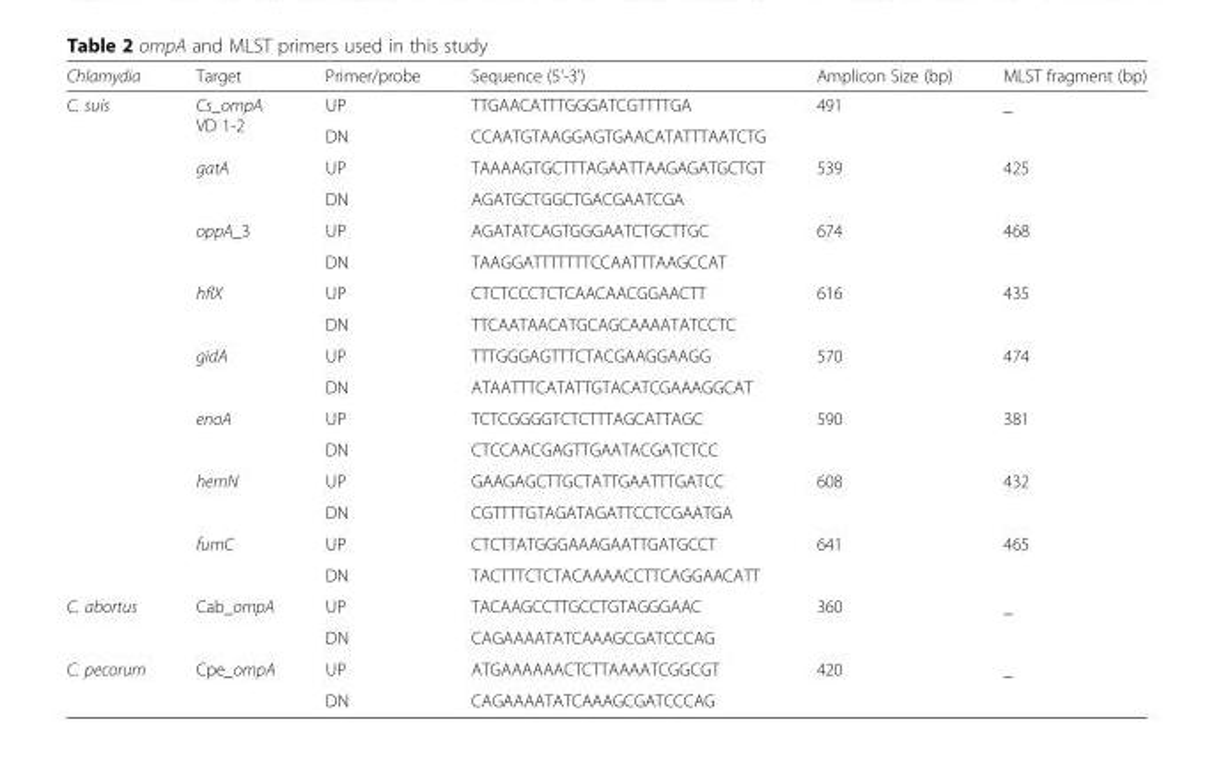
<table><thead><tr><td>Chlamydia</td><td>Target</td><td>Primer/probe</td><td>Sequence (5&#x27;-3&#x27;)</td><td>Amplicon Size (bp)</td><td>MLST fragment (bp)</td></tr></thead><tbody><tr><td rowspan="16">C. suis</td><td rowspan="2">Cs_ompA VD 1-2</td><td>UP</td><td>TTGAACATTTGGGATCGTTTTGA</td><td rowspan="2">491</td><td rowspan="2">_</td></tr><tr><td>DN</td><td>CCAATGTAAGGAGTGAACATATTTAATCTG</td></tr><tr><td rowspan="2">gatA</td><td>UP</td><td>TAAAAGTGCTTTAGAATTAAGAGATGCTGT</td><td rowspan="2">539</td><td rowspan="2">425</td></tr><tr><td>DN</td><td>AGATGCTGGCTGACGAATCGA</td></tr><tr><td rowspan="2">oppA_3</td><td>UP</td><td>AGATATCAGTGGGAATCTGCTTGC</td><td rowspan="2">674</td><td rowspan="2">468</td></tr><tr><td>DN</td><td>TAAGGATTTTTTTCCAATTTAAGCCAT</td></tr><tr><td rowspan="2">hflX</td><td>UP</td><td>CTCTCCCTCTCAACAACGGAACTT</td><td rowspan="2">616</td><td rowspan="2">435</td></tr><tr><td>DN</td><td>TTCAATAACATGCAGCAAAATATCCTC</td></tr><tr><td rowspan="2">gidA</td><td>UP</td><td>TTTGGGAGTTTCTACGAAGGAAGG</td><td rowspan="2">570</td><td rowspan="2">474</td></tr><tr><td>DN</td><td>ATAATTTCATATTGTACATCGAAAGGCAT</td></tr><tr><td rowspan="2">enoA</td><td>UP</td><td>TCTCGGGGTCTCTTTAGCATTAGC</td><td rowspan="2">590</td><td rowspan="2">381</td></tr><tr><td>DN</td><td>CTCCAACGAGTTGAATACGATCTCC</td></tr><tr><td rowspan="2">hemN</td><td>UP</td><td>GAAGAGCTTGCTATTGAATTTGATCC</td><td rowspan="2">608</td><td rowspan="2">432</td></tr><tr><td>DN</td><td>CGTTTTGTAGATAGATTCCTCGAATGA</td></tr><tr><td rowspan="2">fumC</td><td>UP</td><td>CTCTTATGGGAAAGAATTGATGCCT</td><td rowspan="2">641</td><td rowspan="2">465</td></tr><tr><td>DN</td><td>TACTTTCTCTACAAAACCTTCAGGAACATT</td></tr><tr><td rowspan="2">C. abortus</td><td rowspan="2">Cab_ompA</td><td>UP</td><td>TACAAGCCTTGCCTGTAGGGAAC</td><td rowspan="2">360</td><td rowspan="2">_</td></tr><tr><td>DN</td><td>CAGAAAATATCAAAGCGATCCCAG</td></tr><tr><td rowspan="2">C. pecorum</td><td rowspan="2">Cpe_ompA</td><td>UP</td><td>ATGAAAAAACTCTTAAAATCGGCGT</td><td rowspan="2">420</td><td rowspan="2">_</td></tr><tr><td>DN</td><td>CAGAAAATATCAAAGCGATCCCAG</td></tr></tbody></table>